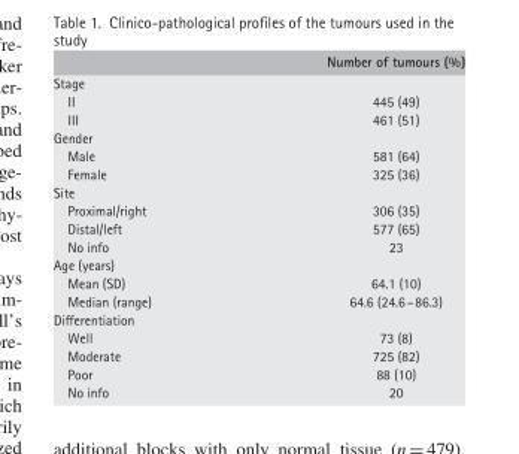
<table><thead><tr><td></td><td>Number of tumours (%)</td></tr></thead><tbody><tr><td colspan="2">Stage</td></tr><tr><td>II</td><td>445 (49)</td></tr><tr><td>III</td><td>461 (51)</td></tr><tr><td colspan="2">Gender</td></tr><tr><td>Male</td><td>581 (64)</td></tr><tr><td>Female</td><td>325 (36)</td></tr><tr><td colspan="2">Site</td></tr><tr><td>Proximal/right</td><td>306 (35)</td></tr><tr><td>Distal/left</td><td>577 (65)</td></tr><tr><td>No info</td><td>23</td></tr><tr><td colspan="2">Age (years)</td></tr><tr><td>Mean (SD)</td><td>64.1 (10)</td></tr><tr><td>Median (range)</td><td>64.6 (24.6–86.3)</td></tr><tr><td colspan="2">Differentiation</td></tr><tr><td>Well</td><td>73 (8)</td></tr><tr><td>Moderate</td><td>725 (82)</td></tr><tr><td>Poor</td><td>88 (10)</td></tr><tr><td>No info</td><td>20</td></tr></tbody></table>